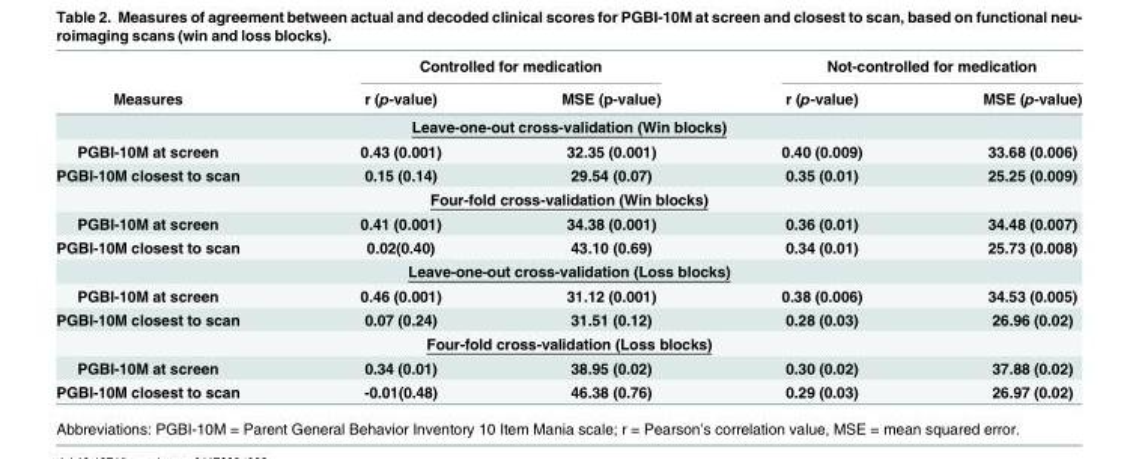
<table><thead><tr><td rowspan="2">Measures</td><td colspan="2">Controlled for medication</td><td colspan="2">Not-controlled for medication</td></tr><tr><td>r (p-value)</td><td>MSE (p-value)</td><td>r (p-value)</td><td>MSE (p-value)</td></tr></thead><tbody><tr><td colspan="5">Leave-one-out cross-validation (Win blocks)</td></tr><tr><td>PGBI-10M at screen</td><td>0.43 (0.001)</td><td>32.35 (0.001)</td><td>0.40 (0.009)</td><td>33.68 (0.006)</td></tr><tr><td>PGBI-10M closest to scan</td><td>0.15 (0.14)</td><td>29.54 (0.07)</td><td>0.35 (0.01)</td><td>25.25 (0.009)</td></tr><tr><td colspan="5">Four-fold cross-validation (Win blocks)</td></tr><tr><td>PGBI-10M at screen</td><td>0.41 (0.001)</td><td>34.38 (0.001)</td><td>0.36 (0.01)</td><td>34.48 (0.007)</td></tr><tr><td>PGBI-10M closest to scan</td><td>0.02(0.40)</td><td>43.10 (0.69)</td><td>0.34 (0.01)</td><td>25.73 (0.008)</td></tr><tr><td colspan="5">Leave-one-out cross-validation (Loss blocks)</td></tr><tr><td>PGBI-10M at screen</td><td>0.46 (0.001)</td><td>31.12 (0.001)</td><td>0.38 (0.006)</td><td>34.53 (0.005)</td></tr><tr><td>PGBI-10M closest to scan</td><td>0.07 (0.24)</td><td>31.51 (0.12)</td><td>0.28 (0.03)</td><td>26.96 (0.02)</td></tr><tr><td colspan="5">Four-fold cross-validation (Loss blocks)</td></tr><tr><td>PGBI-10M at screen</td><td>0.34 (0.01)</td><td>38.95 (0.02)</td><td>0.30 (0.02)</td><td>37.88 (0.02)</td></tr><tr><td>PGBI-10M closest to scan</td><td>-0.01(0.48)</td><td>46.38 (0.76)</td><td>0.29 (0.03)</td><td>26.97 (0.02)</td></tr></tbody></table>